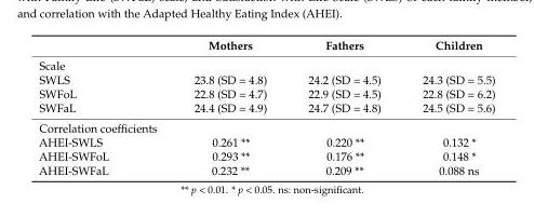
<table><thead><tr><td></td><td>Mothers</td><td>Fathers</td><td>Children</td></tr></thead><tbody><tr><td colspan="4">Scale</td></tr><tr><td>SWLS</td><td>23.8 (SD = 4.8)</td><td>24.2 (SD = 4.5)</td><td>24.3 (SD = 5.5)</td></tr><tr><td>SWFoL</td><td>22.8 (SD = 4.7)</td><td>22.9 (SD = 4.5)</td><td>22.8 (SD = 6.2)</td></tr><tr><td>SWFaL</td><td>24.4 (SD = 4.9)</td><td>24.7 (SD = 4.8)</td><td>24.5 (SD = 5.6)</td></tr><tr><td>Correlation coefficients AHEI-SWLS AHEI-SWFoL AHEI-SWFaL</td><td>0.261 ** 0.293 ** 0.232 **</td><td>0.220 ** 0.176 ** 0.209 **</td><td>0.132 * 0.148 * 0.088 ns</td></tr></tbody></table>